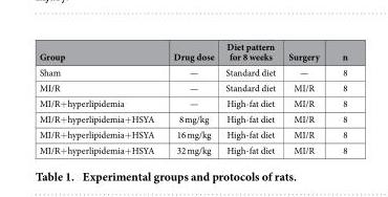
<table><thead><tr><td>Group</td><td>Drug dose</td><td>Diet pattern for 8 weeks</td><td>Surgery</td><td>n</td></tr></thead><tbody><tr><td>Sham</td><td>—</td><td>Standard diet</td><td>—</td><td>8</td></tr><tr><td>MI/R</td><td>—</td><td>Standard diet</td><td>MI/R</td><td>8</td></tr><tr><td>MI/R+ hyperlipidemia</td><td>—</td><td>High-fat diet</td><td>MI/R</td><td>8</td></tr><tr><td>MI/R+ hyperlipidemia+ HSYA</td><td>8 mg/kg</td><td>High-fat diet</td><td>MI/R</td><td>8</td></tr><tr><td>MI/R+ hyperlipidemia+ HSYA</td><td>16 mg/kg</td><td>High-fat diet</td><td>MI/R</td><td>8</td></tr><tr><td>MI/R+ hyperlipidemia+ HSYA</td><td>32 mg/kg</td><td>High-fat diet</td><td>MI/R</td><td>8</td></tr></tbody></table>